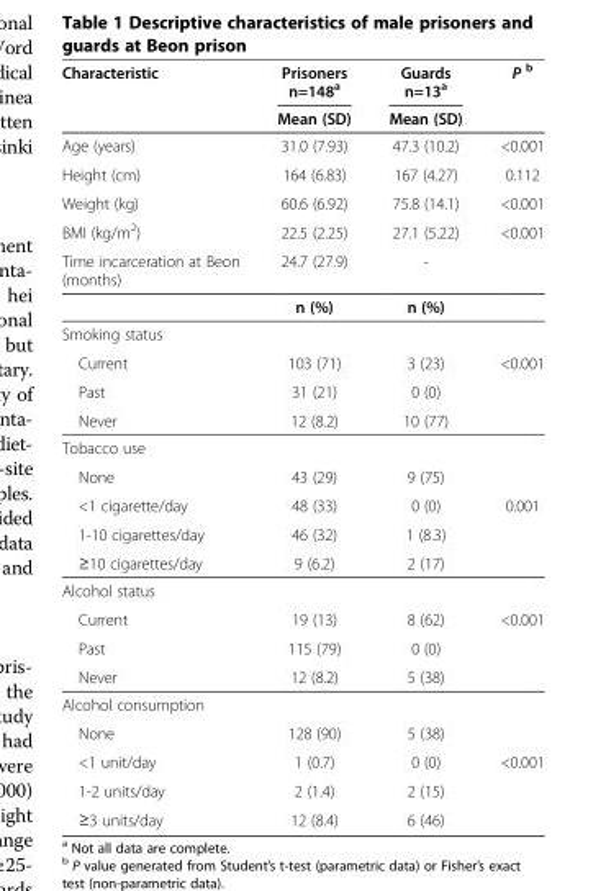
<table><thead><tr><td rowspan="2">Characteristic</td><td rowspan="2">Prisoners n=148<sup>a</sup> Mean (SD)</td><td rowspan="2">Guards n=13<sup>a</sup> Mean (SD)</td><td rowspan="2">P <sup>b</sup></td></tr><tr></tr></thead><tbody><tr><td>Age (years)</td><td>31.0 (7.93)</td><td>47.3 (10.2)</td><td>&lt;0.001</td></tr><tr><td>Height (cm)</td><td>164 (6.83)</td><td>167 (4.27)</td><td>0.112</td></tr><tr><td>Weight (kg)</td><td>60.6 (6.92)</td><td>75.8 (14.1)</td><td>&lt;0.001</td></tr><tr><td>BMI (kg/m<sup>2</sup>)</td><td>22.5 (2.25)</td><td>27.1 (5.22)</td><td>&lt;0.001</td></tr><tr><td rowspan="2">Time incarceration at Beon (months)</td><td>24.7 (27.9)</td><td>-</td><td></td></tr><tr><td>n (%)</td><td>n (%)</td><td></td></tr><tr><td colspan="4">Smoking status</td></tr><tr><td>Current</td><td>103 (71)</td><td>3 (23)</td><td>&lt;0.001</td></tr><tr><td>Past</td><td>31 (21)</td><td>0 (0)</td><td></td></tr><tr><td>Never</td><td>12 (8.2)</td><td>10 (77)</td><td></td></tr><tr><td colspan="4">Tobacco use</td></tr><tr><td>None</td><td>43 (29)</td><td>9 (75)</td><td></td></tr><tr><td>&lt;1 cigarette/day</td><td>48 (33)</td><td>0 (0)</td><td>0.001</td></tr><tr><td>1-10 cigarettes/day</td><td>46 (32)</td><td>1 (8.3)</td><td></td></tr><tr><td>≥10 cigarettes/day</td><td>9 (6.2)</td><td>2 (17)</td><td></td></tr><tr><td colspan="4">Alcohol status</td></tr><tr><td>Current</td><td>19 (13)</td><td>8 (62)</td><td>&lt;0.001</td></tr><tr><td>Past</td><td>115 (79)</td><td>0 (0)</td><td></td></tr><tr><td>Never</td><td>12 (8.2)</td><td>5 (38)</td><td></td></tr><tr><td colspan="4">Alcohol consumption</td></tr><tr><td>None</td><td>128 (90)</td><td>5 (38)</td><td></td></tr><tr><td>&lt;1 unit/day</td><td>1 (0.7)</td><td>0 (0)</td><td>&lt;0.001</td></tr><tr><td>1-2 units/day</td><td>2 (1.4)</td><td>2 (15)</td><td></td></tr><tr><td>≥3 units/day</td><td>12 (8.4)</td><td>6 (46)</td><td></td></tr></tbody></table>